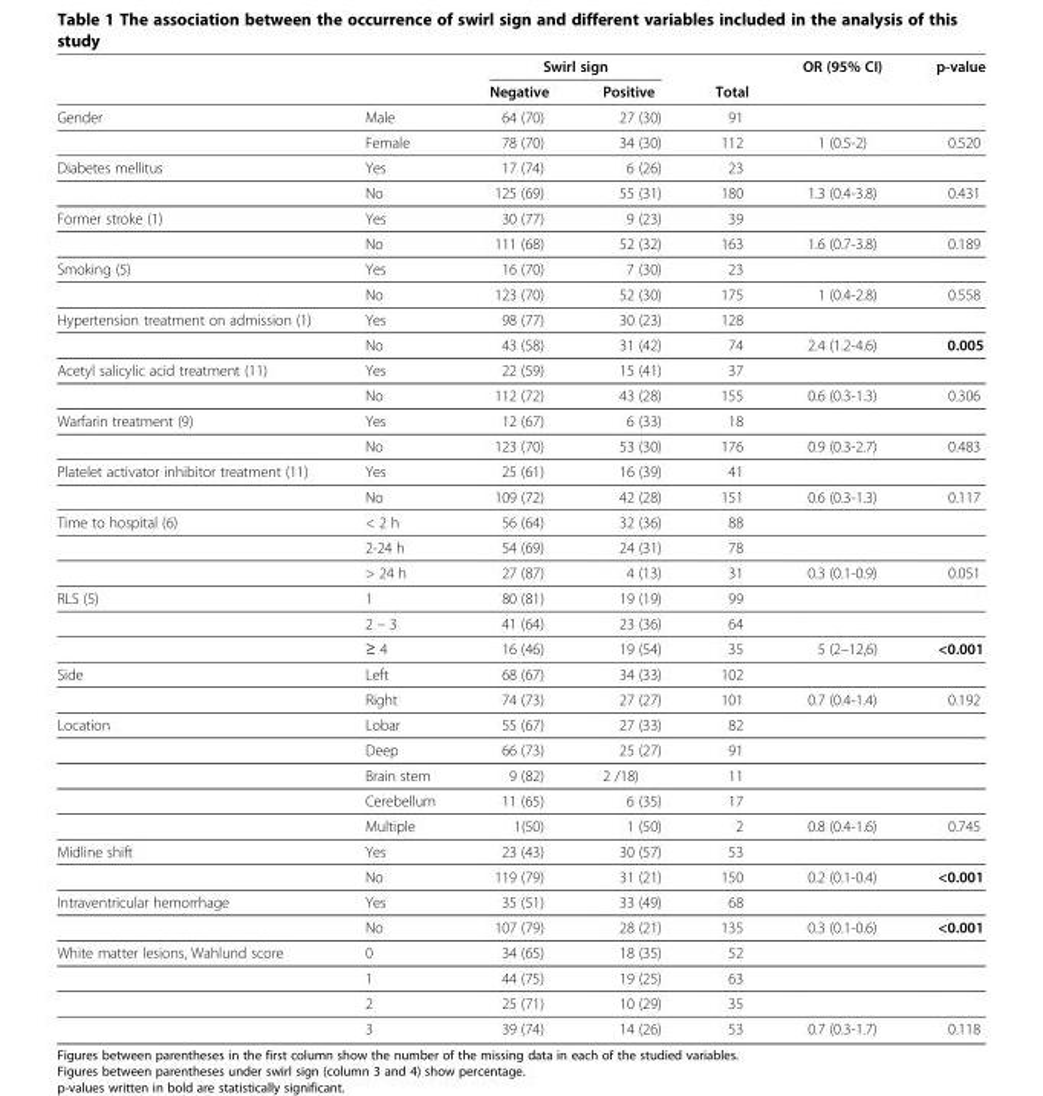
<table><thead><tr><td rowspan="2"></td><td rowspan="2"></td><td colspan="2">Swirl sign</td><td rowspan="2">Total</td><td rowspan="2">OR (95% CI)</td><td rowspan="2">p-value</td></tr><tr><td>Negative</td><td>Positive</td></tr></thead><tbody><tr><td rowspan="2">Gender</td><td>Male</td><td>64 (70)</td><td>27 (30)</td><td>91</td><td></td><td></td></tr><tr><td>Female</td><td>78 (70)</td><td>34 (30)</td><td>112</td><td>1 (0.5-2)</td><td>0.520</td></tr><tr><td rowspan="2">Diabetes mellitus</td><td>Yes</td><td>17 (74)</td><td>6 (26)</td><td>23</td><td></td><td></td></tr><tr><td>No</td><td>125 (69)</td><td>55 (31)</td><td>180</td><td>1.3 (0.4-3.8)</td><td>0.431</td></tr><tr><td rowspan="2">Former stroke (1)</td><td>Yes</td><td>30 (77)</td><td>9 (23)</td><td>39</td><td></td><td></td></tr><tr><td>No</td><td>111 (68)</td><td>52 (32)</td><td>163</td><td>1.6 (0.7-3.8)</td><td>0.189</td></tr><tr><td rowspan="2">Smoking (5)</td><td>Yes</td><td>16 (70)</td><td>7 (30)</td><td>23</td><td></td><td></td></tr><tr><td>No</td><td>123 (70)</td><td>52 (30)</td><td>175</td><td>1 (0.4-2.8)</td><td>0.558</td></tr><tr><td rowspan="2">Hypertension treatment on admission (1)</td><td>Yes</td><td>98 (77)</td><td>30 (23)</td><td>128</td><td></td><td></td></tr><tr><td>No</td><td>43 (58)</td><td>31 (42)</td><td>74</td><td>2.4 (1.2-4.6)</td><td>0.005</td></tr><tr><td rowspan="2">Acetyl salicylic acid treatment (11)</td><td>Yes</td><td>22 (59)</td><td>15 (41)</td><td>37</td><td></td><td></td></tr><tr><td>No</td><td>112 (72)</td><td>43 (28)</td><td>155</td><td>0.6 (0.3-1.3)</td><td>0.306</td></tr><tr><td rowspan="2">Warfarin treatment (9)</td><td>Yes</td><td>12 (67)</td><td>6 (33)</td><td>18</td><td></td><td></td></tr><tr><td>No</td><td>123 (70)</td><td>53 (30)</td><td>176</td><td>0.9 (0.3-2.7)</td><td>0.483</td></tr><tr><td rowspan="2">Platelet activator inhibitor treatment (11)</td><td>Yes</td><td>25 (61)</td><td>16 (39)</td><td>41</td><td></td><td></td></tr><tr><td>No</td><td>109 (72)</td><td>42 (28)</td><td>151</td><td>0.6 (0.3-1.3)</td><td>0.117</td></tr><tr><td rowspan="3">Time to hospital (6)</td><td>&lt; 2 h</td><td>56 (64)</td><td>32 (36)</td><td>88</td><td></td><td></td></tr><tr><td>2-24 h</td><td>54 (69)</td><td>24 (31)</td><td>78</td><td></td><td></td></tr><tr><td>&gt; 24 h</td><td>27 (87)</td><td>4 (13)</td><td>31</td><td>0.3 (0.1-0.9)</td><td>0.051</td></tr><tr><td rowspan="3">RLS (5)</td><td>1</td><td>80 (81)</td><td>19 (19)</td><td>99</td><td></td><td></td></tr><tr><td>2 – 3</td><td>41 (64)</td><td>23 (36)</td><td>64</td><td></td><td></td></tr><tr><td>≥ 4</td><td>16 (46)</td><td>19 (54)</td><td>35</td><td>5 (2–12,6)</td><td>&lt;0.001</td></tr><tr><td rowspan="2">Side</td><td>Left</td><td>68 (67)</td><td>34 (33)</td><td>102</td><td></td><td></td></tr><tr><td>Right</td><td>74 (73)</td><td>27 (27)</td><td>101</td><td>0.7 (0.4-1.4)</td><td>0.192</td></tr><tr><td rowspan="5">Location</td><td>Lobar</td><td>55 (67)</td><td>27 (33)</td><td>82</td><td></td><td></td></tr><tr><td>Deep</td><td>66 (73)</td><td>25 (27)</td><td>91</td><td></td><td></td></tr><tr><td>Brain stem</td><td>9 (82)</td><td>2 /18)</td><td>11</td><td></td><td></td></tr><tr><td>Cerebellum</td><td>11 (65)</td><td>6 (35)</td><td>17</td><td></td><td></td></tr><tr><td>Multiple</td><td>1(50)</td><td>1 (50)</td><td>2</td><td>0.8 (0.4-1.6)</td><td>0.745</td></tr><tr><td rowspan="2">Midline shift</td><td>Yes</td><td>23 (43)</td><td>30 (57)</td><td>53</td><td></td><td></td></tr><tr><td>No</td><td>119 (79)</td><td>31 (21)</td><td>150</td><td>0.2 (0.1-0.4)</td><td>&lt;0.001</td></tr><tr><td rowspan="2">Intraventricular hemorrhage</td><td>Yes</td><td>35 (51)</td><td>33 (49)</td><td>68</td><td></td><td></td></tr><tr><td>No</td><td>107 (79)</td><td>28 (21)</td><td>135</td><td>0.3 (0.1-0.6)</td><td>&lt;0.001</td></tr><tr><td rowspan="4">White matter lesions, Wahlund score</td><td>0</td><td>34 (65)</td><td>18 (35)</td><td>52</td><td></td><td></td></tr><tr><td>1</td><td>44 (75)</td><td>19 (25)</td><td>63</td><td></td><td></td></tr><tr><td>2</td><td>25 (71)</td><td>10 (29)</td><td>35</td><td></td><td></td></tr><tr><td>3</td><td>39 (74)</td><td>14 (26)</td><td>53</td><td>0.7 (0.3-1.7)</td><td>0.118</td></tr></tbody></table>